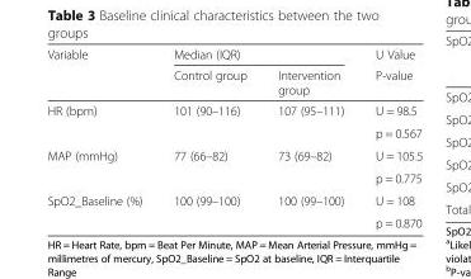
<table><thead><tr><td rowspan="2">Variable</td><td colspan="2">Median (IQR)</td><td rowspan="2">U Value P-value</td></tr><tr><td>Control group</td><td>Intervention group</td></tr></thead><tbody><tr><td rowspan="2">HR (bpm)</td><td rowspan="2">101 (90–116)</td><td rowspan="2">107 (95–111)</td><td>U = 98.5</td></tr><tr><td>p = 0.567</td></tr><tr><td rowspan="2">MAP (mmHg)</td><td rowspan="2">77 (66–82)</td><td rowspan="2">73 (69–82)</td><td>U = 105.5</td></tr><tr><td>p = 0.775</td></tr><tr><td rowspan="2">SpO2_Baseline (%)</td><td rowspan="2">100 (99–100)</td><td rowspan="2">100 (99–100)</td><td>U = 108</td></tr><tr><td>p = 0.870</td></tr></tbody></table>